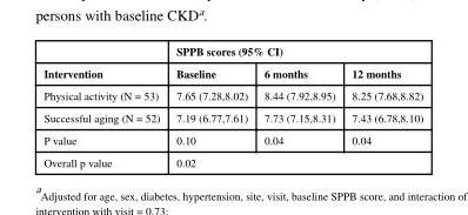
<table><thead><tr><td rowspan="2">Intervention</td><td colspan="3">SPPB scores (95% CI)</td></tr><tr><td>Baseline</td><td>6 months</td><td>12 months</td></tr></thead><tbody><tr><td>Physical activity (N = 53)</td><td>7.65 (7.28,8.02)</td><td>8.44 (7.92,8.95)</td><td>8.25 (7.68,8.82)</td></tr><tr><td>Successful aging (N = 52)</td><td>7.19 (6.77,7.61)</td><td>7.73 (7.15,8.31)</td><td>7.43 (6.78,8.10)</td></tr><tr><td>P value</td><td>0.10</td><td>0.04</td><td>0.04</td></tr><tr><td>Overall p value</td><td colspan="3">0.02</td></tr></tbody></table>